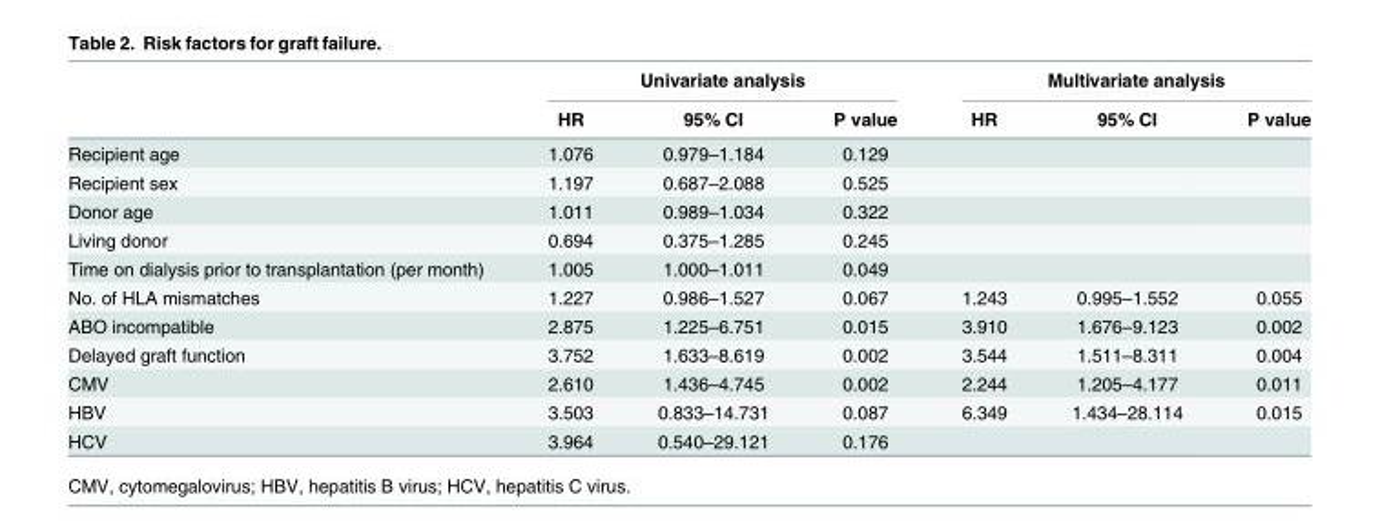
<table><thead><tr><td rowspan="2"></td><td colspan="3">Univariate analysis</td><td colspan="3">Multivariate analysis</td></tr><tr><td>HR</td><td>95% CI</td><td>P value</td><td>HR</td><td>95% CI</td><td>P value</td></tr></thead><tbody><tr><td>Recipient age</td><td>1.076</td><td>0.979–1.184</td><td>0.129</td><td></td><td></td><td></td></tr><tr><td>Recipient sex</td><td>1.197</td><td>0.687–2.088</td><td>0.525</td><td></td><td></td><td></td></tr><tr><td>Donor age</td><td>1.011</td><td>0.989–1.034</td><td>0.322</td><td></td><td></td><td></td></tr><tr><td>Living donor</td><td>0.694</td><td>0.375–1.285</td><td>0.245</td><td></td><td></td><td></td></tr><tr><td>Time on dialysis prior to transplantation (per month)</td><td>1.005</td><td>1.000–1.011</td><td>0.049</td><td></td><td></td><td></td></tr><tr><td>No. of HLA mismatches</td><td>1.227</td><td>0.986–1.527</td><td>0.067</td><td>1.243</td><td>0.995–1.552</td><td>0.055</td></tr><tr><td>ABO incompatible</td><td>2.875</td><td>1.225–6.751</td><td>0.015</td><td>3.910</td><td>1.676–9.123</td><td>0.002</td></tr><tr><td>Delayed graft function</td><td>3.752</td><td>1.633–8.619</td><td>0.002</td><td>3.544</td><td>1.511–8.311</td><td>0.004</td></tr><tr><td>CMV</td><td>2.610</td><td>1.436–4.745</td><td>0.002</td><td>2.244</td><td>1.205–4.177</td><td>0.011</td></tr><tr><td>HBV</td><td>3.503</td><td>0.833–14.731</td><td>0.087</td><td>6.349</td><td>1.434–28.114</td><td>0.015</td></tr><tr><td>HCV</td><td>3.964</td><td>0.540–29.121</td><td>0.176</td><td></td><td></td><td></td></tr></tbody></table>